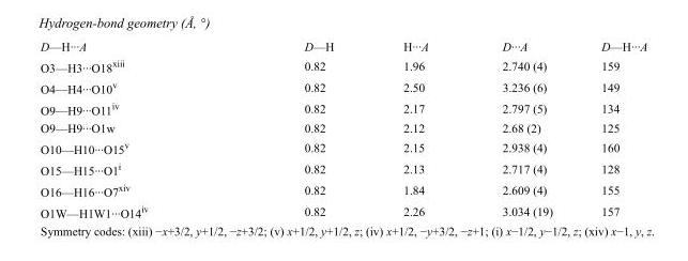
<table><tbody><tr><td>D—H···A</td><td>D—H</td><td>H···A</td><td>D···A</td><td>D—H···A</td></tr><tr><td>O3—H3···O18<sup>xiii</sup></td><td>0.82</td><td>1.96</td><td>2.740 (4)</td><td>159</td></tr><tr><td>O4—H4···O10<sup>v</sup></td><td>0.82</td><td>2.50</td><td>3.236 (6)</td><td>149</td></tr><tr><td>O9—H9···O11<sup>iv</sup></td><td>0.82</td><td>2.17</td><td>2.797 (5)</td><td>134</td></tr><tr><td>O9—H9···O1w</td><td>0.82</td><td>2.12</td><td>2.68 (2)</td><td>125</td></tr><tr><td>O10—H10···O15<sup>v</sup></td><td>0.82</td><td>2.15</td><td>2.938 (4)</td><td>160</td></tr><tr><td>O15—H15···O1<sup>i</sup></td><td>0.82</td><td>2.13</td><td>2.717 (4)</td><td>128</td></tr><tr><td>O16—H16···O7<sup>xiv</sup></td><td>0.82</td><td>1.84</td><td>2.609 (4)</td><td>155</td></tr><tr><td>O1W—H1W1···O14<sup>iv</sup></td><td>0.82</td><td>2.26</td><td>3.034 (19)</td><td>157</td></tr></tbody></table>